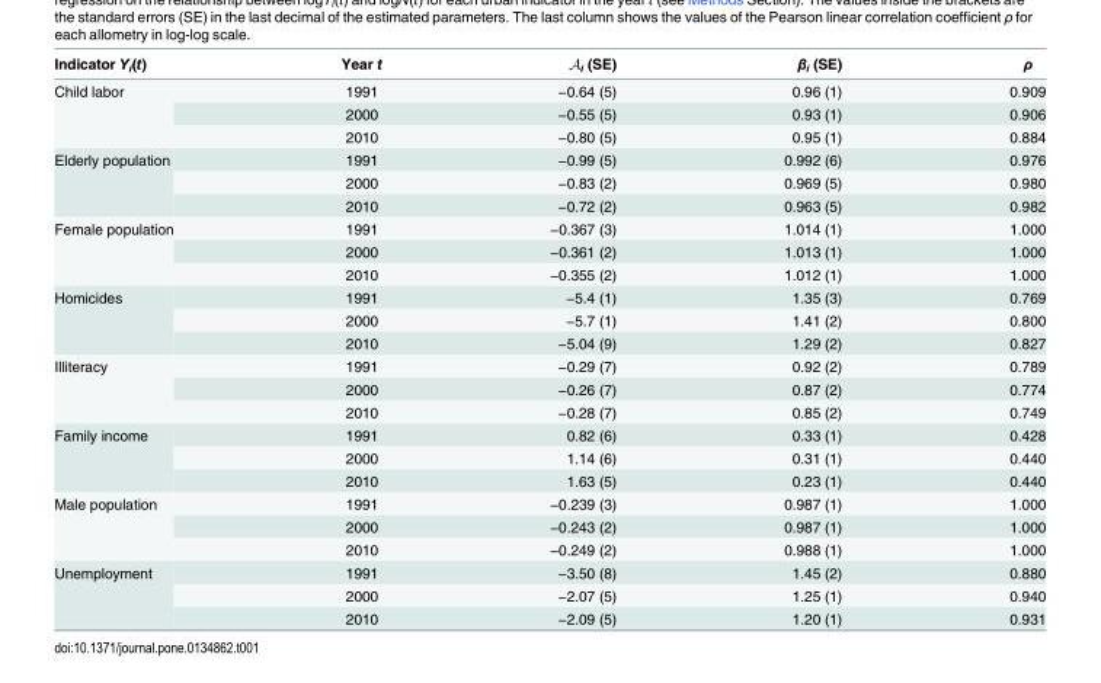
<table><thead><tr><td>Indicator Y<sub>i</sub>(t)</td><td>Year t</td><td>A<sub>i</sub> (SE)</td><td>β<sub>i</sub> (SE)</td><td>ρ</td></tr></thead><tbody><tr><td rowspan="3">Child labor</td><td>1991</td><td>−0.64 (5)</td><td>0.96 (1)</td><td>0.909</td></tr><tr><td>2000</td><td>−0.55 (5)</td><td>0.93 (1)</td><td>0.906</td></tr><tr><td>2010</td><td>−0.80 (5)</td><td>0.95 (1)</td><td>0.884</td></tr><tr><td rowspan="3">Elderly population</td><td>1991</td><td>−0.99 (5)</td><td>0.992 (6)</td><td>0.976</td></tr><tr><td>2000</td><td>−0.83 (2)</td><td>0.969 (5)</td><td>0.980</td></tr><tr><td>2010</td><td>−0.72 (2)</td><td>0.963 (5)</td><td>0.982</td></tr><tr><td rowspan="3">Female population</td><td>1991</td><td>−0.367 (3)</td><td>1.014 (1)</td><td>1.000</td></tr><tr><td>2000</td><td>−0.361 (2)</td><td>1.013 (1)</td><td>1.000</td></tr><tr><td>2010</td><td>−0.355 (2)</td><td>1.012 (1)</td><td>1.000</td></tr><tr><td rowspan="3">Homicides</td><td>1991</td><td>−5.4 (1)</td><td>1.35 (3)</td><td>0.769</td></tr><tr><td>2000</td><td>−5.7 (1)</td><td>1.41 (2)</td><td>0.800</td></tr><tr><td>2010</td><td>−5.04 (9)</td><td>1.29 (2)</td><td>0.827</td></tr><tr><td rowspan="3">Illiteracy</td><td>1991</td><td>−0.29 (7)</td><td>0.92 (2)</td><td>0.789</td></tr><tr><td>2000</td><td>−0.26 (7)</td><td>0.87 (2)</td><td>0.774</td></tr><tr><td>2010</td><td>−0.28 (7)</td><td>0.85 (2)</td><td>0.749</td></tr><tr><td rowspan="3">Family income</td><td>1991</td><td>0.82 (6)</td><td>0.33 (1)</td><td>0.428</td></tr><tr><td>2000</td><td>1.14 (6)</td><td>0.31 (1)</td><td>0.440</td></tr><tr><td>2010</td><td>1.63 (5)</td><td>0.23 (1)</td><td>0.440</td></tr><tr><td rowspan="3">Male population</td><td>1991</td><td>−0.239 (3)</td><td>0.987 (1)</td><td>1.000</td></tr><tr><td>2000</td><td>−0.243 (2)</td><td>0.987 (1)</td><td>1.000</td></tr><tr><td>2010</td><td>−0.249 (2)</td><td>0.988 (1)</td><td>1.000</td></tr><tr><td rowspan="3">Unemployment</td><td>1991</td><td>−3.50 (8)</td><td>1.45 (2)</td><td>0.880</td></tr><tr><td>2000</td><td>−2.07 (5)</td><td>1.25 (1)</td><td>0.940</td></tr><tr><td>2010</td><td>−2.09 (5)</td><td>1.20 (1)</td><td>0.931</td></tr></tbody></table>